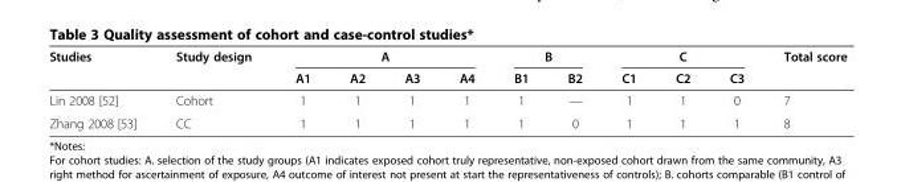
<table><thead><tr><td rowspan="2">Studies</td><td rowspan="2">Study design</td><td colspan="4">A</td><td colspan="2">B</td><td colspan="3">C</td><td rowspan="2">Total score</td></tr><tr><td>A1</td><td>A2</td><td>A3</td><td>A4</td><td>B1</td><td>B2</td><td>C1</td><td>C2</td><td>C3</td></tr></thead><tbody><tr><td>Lin 2008 [52]</td><td>Cohort</td><td>1</td><td>1</td><td>1</td><td>1</td><td>1</td><td>—</td><td>1</td><td>1</td><td>0</td><td>7</td></tr><tr><td>Zhang 2008 [53]</td><td>CC</td><td>1</td><td>1</td><td>1</td><td>1</td><td>1</td><td>0</td><td>1</td><td>1</td><td>1</td><td>8</td></tr></tbody></table>